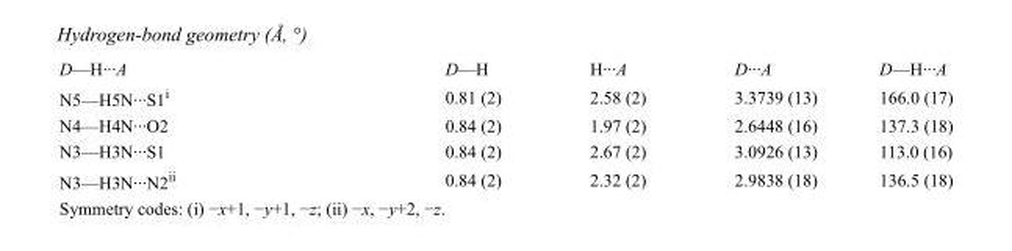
<table><tbody><tr><td>D—H···A</td><td>D—H</td><td>H···A</td><td>D···A</td><td>D—H···A</td></tr><tr><td>N5—H5N···S1<sup>i</sup></td><td>0.81 (2)</td><td>2.58 (2)</td><td>3.3739 (13)</td><td>166.0 (17)</td></tr><tr><td>N4—H4N···O2</td><td>0.84 (2)</td><td>1.97 (2)</td><td>2.6448 (16)</td><td>137.3 (18)</td></tr><tr><td>N3—H3N···S1</td><td>0.84 (2)</td><td>2.67 (2)</td><td>3.0926 (13)</td><td>113.0 (16)</td></tr><tr><td>N3—H3N···N2<sup>ii</sup></td><td>0.84 (2)</td><td>2.32 (2)</td><td>2.9838 (18)</td><td>136.5 (18)</td></tr></tbody></table>